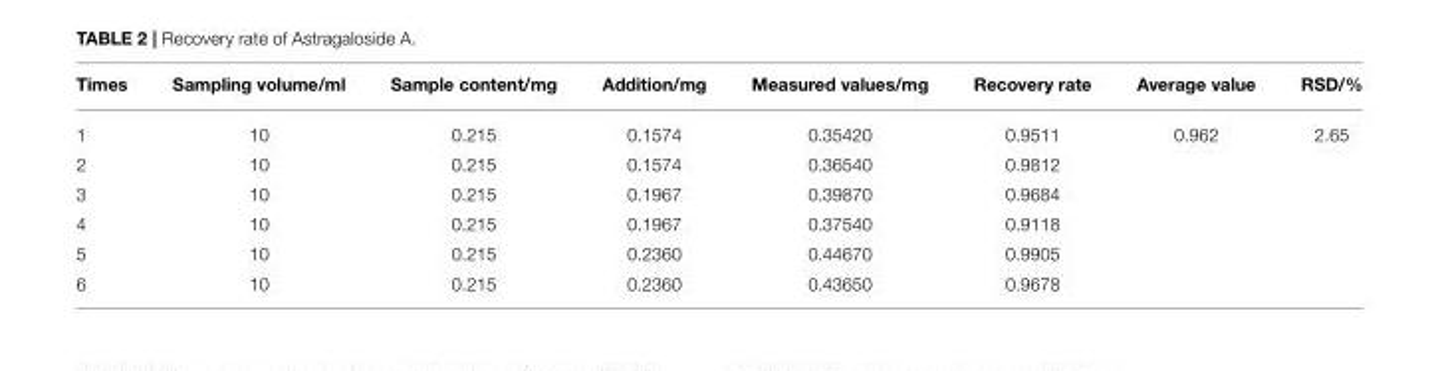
<table><thead><tr><td>Times</td><td>Sampling volume/ml</td><td>Sample content/mg</td><td>Addition/mg</td><td>Measured values/mg</td><td>Recovery rate</td><td>Average value</td><td>RSD/%</td></tr></thead><tbody><tr><td>1</td><td>10</td><td>0.215</td><td>0.1574</td><td>0.35420</td><td>0.9511</td><td>0.962</td><td>2.65</td></tr><tr><td>2</td><td>10</td><td>0.215</td><td>0.1574</td><td>0.36540</td><td>0.9812</td><td></td><td></td></tr><tr><td>3</td><td>10</td><td>0.215</td><td>0.1967</td><td>0.39870</td><td>0.9684</td><td></td><td></td></tr><tr><td>4</td><td>10</td><td>0.215</td><td>0.1967</td><td>0.37540</td><td>0.9118</td><td></td><td></td></tr><tr><td>5</td><td>10</td><td>0.215</td><td>0.2360</td><td>0.44670</td><td>0.9905</td><td></td><td></td></tr><tr><td>6</td><td>10</td><td>0.215</td><td>0.2360</td><td>0.43650</td><td>0.9678</td><td></td><td></td></tr></tbody></table>